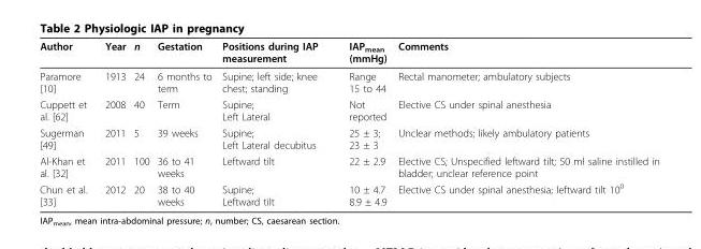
<table><thead><tr><td>Author</td><td>Year</td><td>n</td><td>Gestation</td><td>Positions during IAP measurement</td><td>IAP<sub>mean</sub> (mmHg)</td><td>Comments</td></tr></thead><tbody><tr><td>Paramore [10]</td><td>1913</td><td>24</td><td>6 months to term</td><td>Supine; left side; knee chest; standing</td><td>Range 15 to 44</td><td>Rectal manometer; ambulatory subjects</td></tr><tr><td>Cuppett et al. [62]</td><td>2008</td><td>40</td><td>Term</td><td>Supine; Left Lateral</td><td>Not reported</td><td>Elective CS under spinal anesthesia</td></tr><tr><td>Sugerman [49]</td><td>2011</td><td>5</td><td>39 weeks</td><td>Supine; Left Lateral decubitus</td><td>25 ± 3; 23 ± 3</td><td>Unclear methods; likely ambulatory patients</td></tr><tr><td>Al-Khan et al. [32]</td><td>2011</td><td>100</td><td>36 to 41 weeks</td><td>Leftward tilt</td><td>22 ± 2.9</td><td>Elective CS; Unspecified leftward tilt; 50 ml saline instilled in bladder; unclear reference point</td></tr><tr><td>Chun et al. [33]</td><td>2012</td><td>20</td><td>38 to 40 weeks</td><td>Supine; Leftward tilt</td><td>10 ± 4.7 8.9 ± 4.9</td><td>Elective CS under spinal anesthesia; leftward tilt 10<sup>0</sup></td></tr></tbody></table>